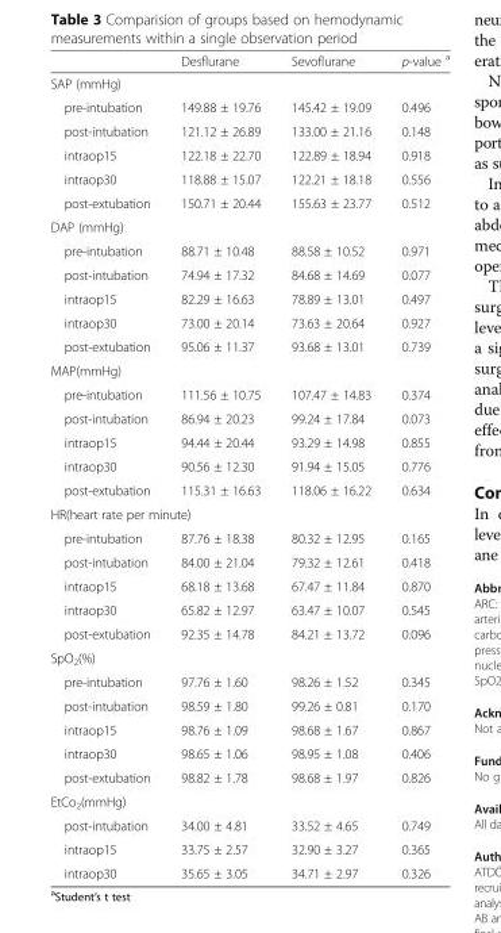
<table><thead><tr><td></td><td>Desflurane</td><td>Sevoflurane</td><td>p-value <sup>a</sup></td></tr></thead><tbody><tr><td colspan="4">SAP (mmHg)</td></tr><tr><td>pre-intubation</td><td>149.88 ± 19.76</td><td>145.42 ± 19.09</td><td>0.496</td></tr><tr><td>post-intubation</td><td>121.12 ± 26.89</td><td>133.00 ± 21.16</td><td>0.148</td></tr><tr><td>intraop15</td><td>122.18 ± 22.70</td><td>122.89 ± 18.94</td><td>0.918</td></tr><tr><td>intraop30</td><td>118.88 ± 15.07</td><td>122.21 ± 18.18</td><td>0.556</td></tr><tr><td>post-extubation</td><td>150.71 ± 20.44</td><td>155.63 ± 23.77</td><td>0.512</td></tr><tr><td colspan="4">DAP (mmHg)</td></tr><tr><td>pre-intubation</td><td>88.71 ± 10.48</td><td>88.58 ± 10.52</td><td>0.971</td></tr><tr><td>post-intubation</td><td>74.94 ± 17.32</td><td>84.68 ± 14.69</td><td>0.077</td></tr><tr><td>intraop15</td><td>82.29 ± 16.63</td><td>78.89 ± 13.01</td><td>0.497</td></tr><tr><td>intraop30</td><td>73.00 ± 20.14</td><td>73.63 ± 20.64</td><td>0.927</td></tr><tr><td>post-extubation</td><td>95.06 ± 11.37</td><td>93.68 ± 13.01</td><td>0.739</td></tr><tr><td colspan="4">MAP(mmHg)</td></tr><tr><td>pre-intubation</td><td>111.56 ± 10.75</td><td>107.47 ± 14.83</td><td>0.374</td></tr><tr><td>post-intubation</td><td>86.94 ± 20.23</td><td>99.24 ± 17.84</td><td>0.073</td></tr><tr><td>intraop15</td><td>94.44 ± 20.44</td><td>93.29 ± 14.98</td><td>0.855</td></tr><tr><td>intraop30</td><td>90.56 ± 12.30</td><td>91.94 ± 15.05</td><td>0.776</td></tr><tr><td>post-extubation</td><td>115.31 ± 16.63</td><td>118.06 ± 16.22</td><td>0.634</td></tr><tr><td colspan="4">HR(heart rate per minute)</td></tr><tr><td>pre-intubation</td><td>87.76 ± 18.38</td><td>80.32 ± 12.95</td><td>0.165</td></tr><tr><td>post-intubation</td><td>84.00 ± 21.04</td><td>79.32 ± 12.61</td><td>0.418</td></tr><tr><td>intraop15</td><td>68.18 ± 13.68</td><td>67.47 ± 11.84</td><td>0.870</td></tr><tr><td>intraop30</td><td>65.82 ± 12.97</td><td>63.47 ± 10.07</td><td>0.545</td></tr><tr><td>post-extubation</td><td>92.35 ± 14.78</td><td>84.21 ± 13.72</td><td>0.096</td></tr><tr><td colspan="4">SpO<sub>2</sub>(%)</td></tr><tr><td>pre-intubation</td><td>97.76 ± 1.60</td><td>98.26 ± 1.52</td><td>0.345</td></tr><tr><td>post-intubation</td><td>98.59 ± 1.80</td><td>99.26 ± 0.81</td><td>0.170</td></tr><tr><td>intraop15</td><td>98.76 ± 1.09</td><td>98.68 ± 1.67</td><td>0.867</td></tr><tr><td>intraop30</td><td>98.65 ± 1.06</td><td>98.95 ± 1.08</td><td>0.406</td></tr><tr><td>post-extubation</td><td>98.82 ± 1.78</td><td>98.68 ± 1.97</td><td>0.826</td></tr><tr><td colspan="4">EtCo<sub>2</sub>(mmHg)</td></tr><tr><td>post-intubation</td><td>34.00 ± 4.81</td><td>33.52 ± 4.65</td><td>0.749</td></tr><tr><td>intraop15</td><td>33.75 ± 2.57</td><td>32.90 ± 3.27</td><td>0.365</td></tr><tr><td>intraop30</td><td>35.65 ± 3.05</td><td>34.71 ± 2.97</td><td>0.326</td></tr></tbody></table>